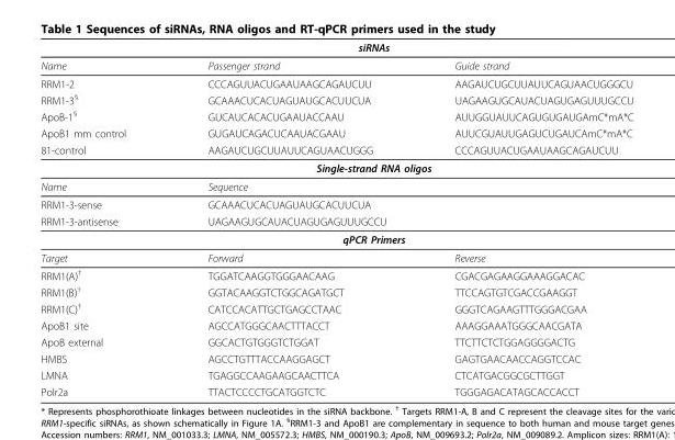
<table><thead><tr><td colspan="3">siRNAs</td></tr><tr><td>Name</td><td>Passenger strand</td><td>Guide strand</td></tr></thead><tbody><tr><td>RRM1-2</td><td>CCCAGUUACUGAAUAAGCAGAUCUU</td><td>AAGAUCUGCUUAUUCAGUAACUGGGCU</td></tr><tr><td>RRM1-3<sup>§</sup></td><td>GCAAACUCACUAGUAUGCACUUCUA</td><td>UAGAAGUGCAUACUAGUGAGUUUGCCU</td></tr><tr><td>ApoB-1<sup>§</sup></td><td>GUCAUCACACUGAAUACCAAU</td><td>AUUGGUAUUCAGUGUGAUGAmC*mA*C</td></tr><tr><td>ApoB1 mm control</td><td>GUGAUCAGACUCAAUACGAAU</td><td>AUUCGUAUUGAGUCUGAUCAmC*mA*C</td></tr><tr><td>81-control</td><td>AAGAUCUGCUUAUUCAGUAACUGGG</td><td>CCCAGUUACUGAAUAAGCAGAUCUU</td></tr><tr><td colspan="3">Single-strand RNA oligos</td></tr><tr><td>Name</td><td colspan="2">Sequence</td></tr><tr><td>RRM1-3-sense</td><td colspan="2">GCAAACUCACUAGUAUGCACUUCUA</td></tr><tr><td>RRM1-3-antisense</td><td colspan="2">UAGAAGUGCAUACUAGUGAGUUUGCCU</td></tr><tr><td colspan="3">qPCR Primers</td></tr><tr><td>Target</td><td>Forward</td><td>Reverse</td></tr><tr><td>RRM1(A)<sup>†</sup></td><td>TGGATCAAGGTGGGAACAAG</td><td>CGACGAGAAGGAAAGGACAC</td></tr><tr><td>RRM1(B)<sup>†</sup></td><td>GGTACAAGGTCTGGCAGATGCT</td><td>TTCCAGTGTCGACCGAAGGT</td></tr><tr><td>RRM1(C)<sup>†</sup></td><td>CATCCACATTGCTGAGCCTAAC</td><td>GGGTCAGAAGTTTGGGACGAA</td></tr><tr><td>ApoB1 site</td><td>AGCCATGGGCAACTTTACCT</td><td>AAAGGAAATGGGCAACGATA</td></tr><tr><td>ApoB external</td><td>GGCACTGTGGGTCTGGAT</td><td>TTCTTCTCTGGAGGGGACTG</td></tr><tr><td>HMBS</td><td>AGCCTGTTTACCAAGGAGCT</td><td>GAGTGAACAACCAGGTCCAC</td></tr><tr><td>LMNA</td><td>TGAGGCCAAGAAGCAACTTCA</td><td>CTCATGACGGCGCTTGGT</td></tr><tr><td>Polr2a</td><td>TTACTCCCCTGCATGGTCTC</td><td>TGGGAGACATAGCACCACCT</td></tr></tbody></table>